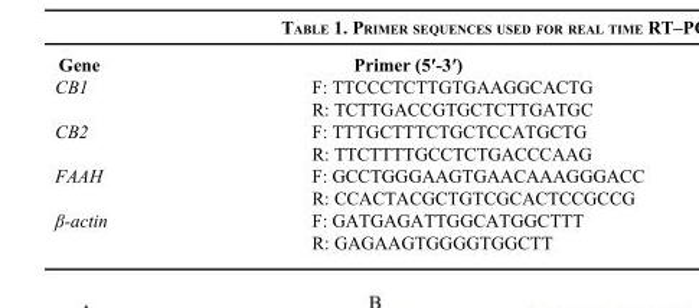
<table><thead><tr><td>Gene</td><td>Primer (5′-3′)</td></tr></thead><tbody><tr><td rowspan="2">CB1</td><td>F: TTCCCTCTTGTGAAGGCACTG</td></tr><tr><td>R: TCTTGACCGTGCTCTTGATGC</td></tr><tr><td rowspan="2">CB2</td><td>F: TTTGCTTTCTGCTCCATGCTG</td></tr><tr><td>R: TTCTTTTGCCTCTGACCCAAG</td></tr><tr><td rowspan="2">FAAH</td><td>F: GCCTGGGAAGTGAACAAAGGGACC</td></tr><tr><td>R: CCACTACGCTGTCGCACTCCGCCG</td></tr><tr><td rowspan="2">β-actin</td><td>F: GATGAGATTGGCATGGCTTT</td></tr><tr><td>R: GAGAAGTGGGGTGGCTT</td></tr></tbody></table>